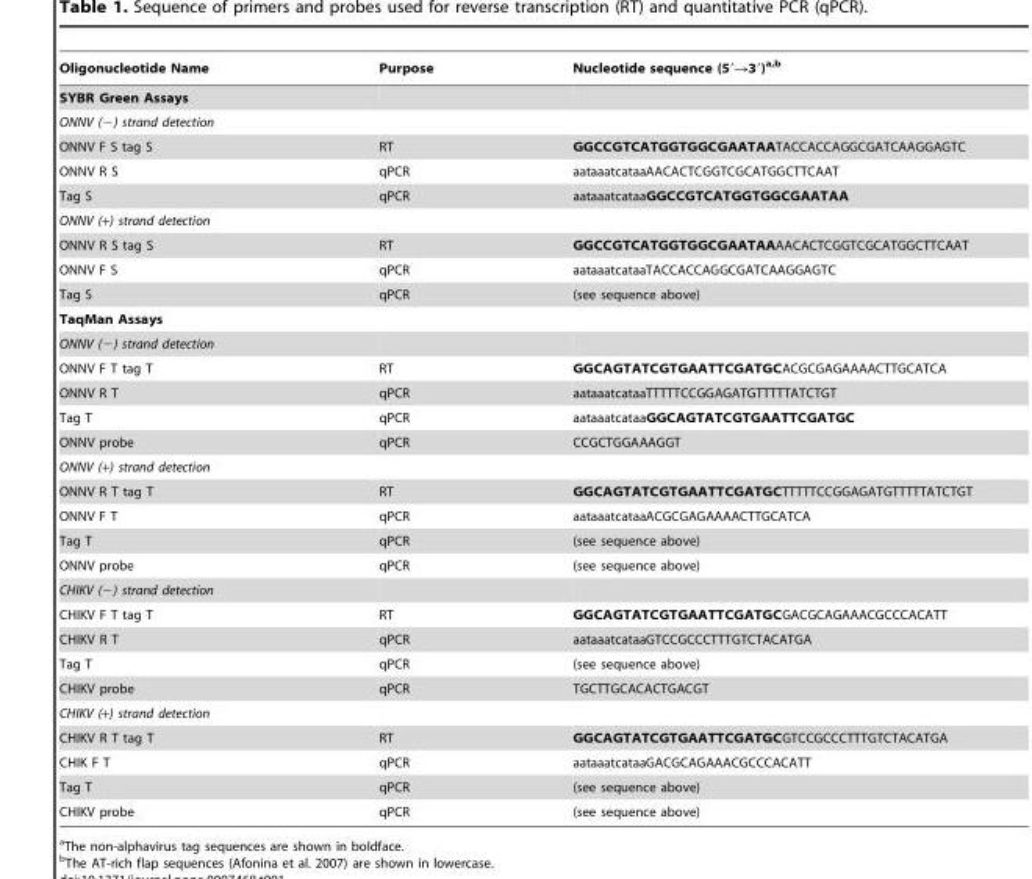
<table><thead><tr><td>Oligonucleotide Name</td><td>Purpose</td><td>Nucleotide sequence (5′→3′)a,b</td></tr></thead><tbody><tr><td colspan="3">SYBR Green Assays</td></tr><tr><td colspan="3">ONNV (−) strand detection</td></tr><tr><td>ONNV F S tag S</td><td>RT</td><td>GGCCGTCATGGTGGCGAATAATACCACCAGGCGATCAAGGAGTC</td></tr><tr><td>ONNV R S</td><td>qPCR</td><td>aataaatcataaAACACTCGGTCGCATGGCTTCAAT</td></tr><tr><td>Tag S</td><td>qPCR</td><td>aataaatcataaGGCCGTCATGGTGGCGAATAA</td></tr><tr><td colspan="3">ONNV (+) strand detection</td></tr><tr><td>ONNV R S tag S</td><td>RT</td><td>GGCCGTCATGGTGGCGAATAAAACACTCGGTCGCATGGCTTCAAT</td></tr><tr><td>ONNV F S</td><td>qPCR</td><td>aataaatcataaTACCACCAGGCGATCAAGGAGTC</td></tr><tr><td>Tag S</td><td>qPCR</td><td>(see sequence above)</td></tr><tr><td colspan="3">TaqMan Assays</td></tr><tr><td colspan="3">ONNV (−) strand detection</td></tr><tr><td>ONNV F T tag T</td><td>RT</td><td>GGCAGTATCGTGAATTCGATGCACGCGAGAAAACTTGCATCA</td></tr><tr><td>ONNV R T</td><td>qPCR</td><td>aataaatcataaTTTTTCCGGAGATGTTTTTATCTGT</td></tr><tr><td>Tag T</td><td>qPCR</td><td>aataaatcataaGGCAGTATCGTGAATTCGATGC</td></tr><tr><td>ONNV probe</td><td>qPCR</td><td>CCGCTGGAAAGGT</td></tr><tr><td colspan="3">ONNV (+) strand detection</td></tr><tr><td>ONNV R T tag T</td><td>RT</td><td>GGCAGTATCGTGAATTCGATGCTTTTTCCGGAGATGTTTTTATCTGT</td></tr><tr><td>ONNV F T</td><td>qPCR</td><td>aataaatcataaACGCGAGAAAACTTGCATCA</td></tr><tr><td>Tag T</td><td>qPCR</td><td>(see sequence above)</td></tr><tr><td>ONNV probe</td><td>qPCR</td><td>(see sequence above)</td></tr><tr><td colspan="3">CHIKV (−) strand detection</td></tr><tr><td>CHIKV F T tag T</td><td>RT</td><td>GGCAGTATCGTGAATTCGATGCGACGCAGAAACGCCCACATT</td></tr><tr><td>CHIKV R T</td><td>qPCR</td><td>aataaatcataaGTCCGCCCTTTGTCTACATGA</td></tr><tr><td>Tag T</td><td>qPCR</td><td>(see sequence above)</td></tr><tr><td>CHIKV probe</td><td>qPCR</td><td>TGCTTGCACACTGACGT</td></tr><tr><td colspan="3">CHIKV (+) strand detection</td></tr><tr><td>CHIKV R T tag T</td><td>RT</td><td>GGCAGTATCGTGAATTCGATGCGTCCGCCCTTTGTCTACATGA</td></tr><tr><td>CHIK F T</td><td>qPCR</td><td>aataaatcataaGACGCAGAAACGCCCACATT</td></tr><tr><td>Tag T</td><td>qPCR</td><td>(see sequence above)</td></tr><tr><td>CHIKV probe</td><td>qPCR</td><td>(see sequence above)</td></tr></tbody></table>